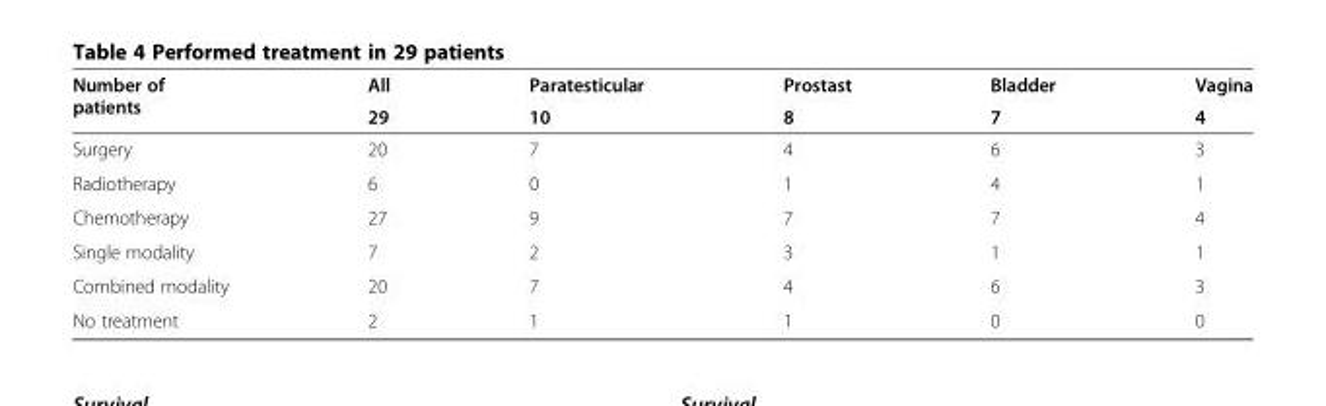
<table><thead><tr><td rowspan="2">Number of patients</td><td rowspan="2">All 29</td><td rowspan="2">Paratesticular 10</td><td rowspan="2">Prostast 8</td><td rowspan="2">Bladder 7</td><td rowspan="2">Vagina 4</td></tr><tr></tr></thead><tbody><tr><td>Surgery</td><td>20</td><td>7</td><td>4</td><td>6</td><td>3</td></tr><tr><td>Radiotherapy</td><td>6</td><td>0</td><td>1</td><td>4</td><td>1</td></tr><tr><td>Chemotherapy</td><td>27</td><td>9</td><td>7</td><td>7</td><td>4</td></tr><tr><td>Single modality</td><td>7</td><td>2</td><td>3</td><td>1</td><td>1</td></tr><tr><td>Combined modality</td><td>20</td><td>7</td><td>4</td><td>6</td><td>3</td></tr><tr><td>No treatment</td><td>2</td><td>1</td><td>1</td><td>0</td><td>0</td></tr></tbody></table>